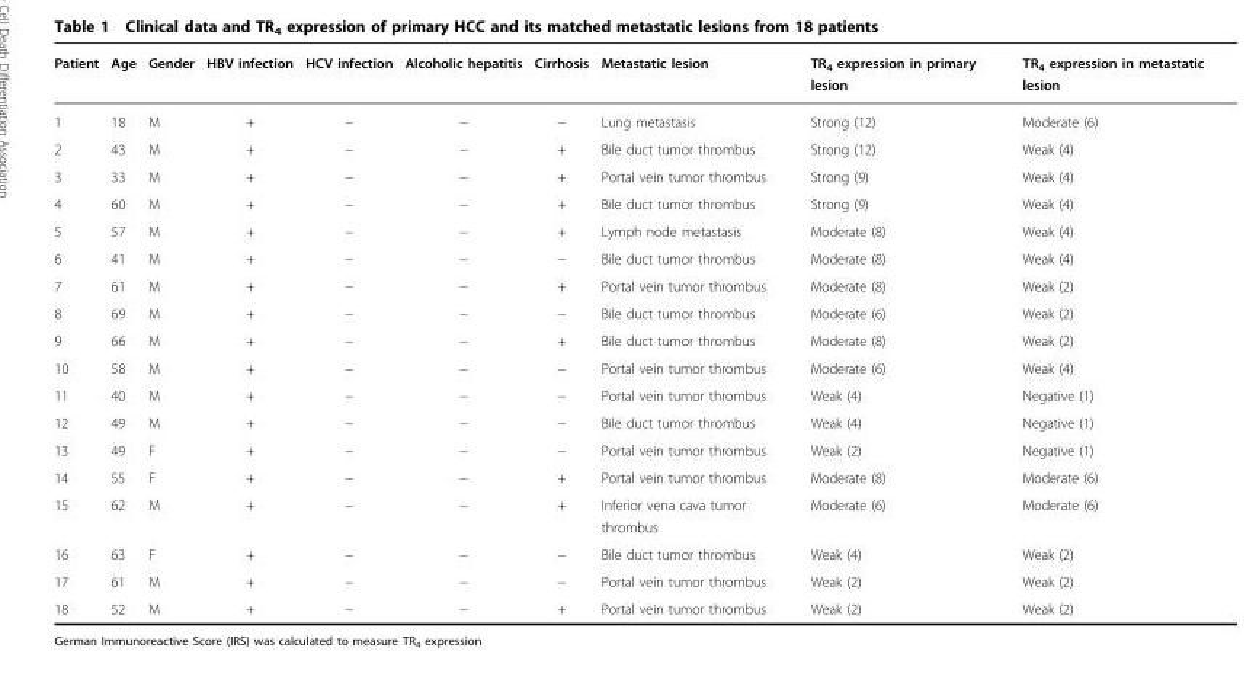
<table><thead><tr><td>Patient</td><td>Age</td><td>Gender</td><td>HBV infection</td><td>HCV infection</td><td>Alcoholic hepatitis</td><td>Cirrhosis</td><td>Metastatic lesion</td><td>TR<sub>4</sub> expression in primary lesion</td><td>TR<sub>4</sub> expression in metastatic lesion</td></tr></thead><tbody><tr><td>1</td><td>18</td><td>M</td><td>+</td><td>−</td><td>−</td><td>−</td><td>Lung metastasis</td><td>Strong (12)</td><td>Moderate (6)</td></tr><tr><td>2</td><td>43</td><td>M</td><td>+</td><td>−</td><td>−</td><td>+</td><td>Bile duct tumor thrombus</td><td>Strong (12)</td><td>Weak (4)</td></tr><tr><td>3</td><td>33</td><td>M</td><td>+</td><td>−</td><td>−</td><td>+</td><td>Portal vein tumor thrombus</td><td>Strong (9)</td><td>Weak (4)</td></tr><tr><td>4</td><td>60</td><td>M</td><td>+</td><td>−</td><td>−</td><td>+</td><td>Bile duct tumor thrombus</td><td>Strong (9)</td><td>Weak (4)</td></tr><tr><td>5</td><td>57</td><td>M</td><td>+</td><td>−</td><td>−</td><td>+</td><td>Lymph node metastasis</td><td>Moderate (8)</td><td>Weak (4)</td></tr><tr><td>6</td><td>41</td><td>M</td><td>+</td><td>−</td><td>−</td><td>−</td><td>Bile duct tumor thrombus</td><td>Moderate (8)</td><td>Weak (4)</td></tr><tr><td>7</td><td>61</td><td>M</td><td>+</td><td>−</td><td>−</td><td>+</td><td>Portal vein tumor thrombus</td><td>Moderate (8)</td><td>Weak (2)</td></tr><tr><td>8</td><td>69</td><td>M</td><td>+</td><td>−</td><td>−</td><td>−</td><td>Bile duct tumor thrombus</td><td>Moderate (6)</td><td>Weak (2)</td></tr><tr><td>9</td><td>66</td><td>M</td><td>+</td><td>−</td><td>−</td><td>+</td><td>Bile duct tumor thrombus</td><td>Moderate (8)</td><td>Weak (2)</td></tr><tr><td>10</td><td>58</td><td>M</td><td>+</td><td>−</td><td>−</td><td>−</td><td>Portal vein tumor thrombus</td><td>Moderate (6)</td><td>Weak (4)</td></tr><tr><td>11</td><td>40</td><td>M</td><td>+</td><td>−</td><td>−</td><td>−</td><td>Portal vein tumor thrombus</td><td>Weak (4)</td><td>Negative (1)</td></tr><tr><td>12</td><td>49</td><td>M</td><td>+</td><td>−</td><td>−</td><td>−</td><td>Bile duct tumor thrombus</td><td>Weak (4)</td><td>Negative (1)</td></tr><tr><td>13</td><td>49</td><td>F</td><td>+</td><td>−</td><td>−</td><td>−</td><td>Portal vein tumor thrombus</td><td>Weak (2)</td><td>Negative (1)</td></tr><tr><td>14</td><td>55</td><td>F</td><td>+</td><td>−</td><td>−</td><td>+</td><td>Portal vein tumor thrombus</td><td>Moderate (8)</td><td>Moderate (6)</td></tr><tr><td>15</td><td>62</td><td>M</td><td>+</td><td>−</td><td>−</td><td>+</td><td>Inferior vena cava tumor thrombus</td><td>Moderate (6)</td><td>Moderate (6)</td></tr><tr><td>16</td><td>63</td><td>F</td><td>+</td><td>−</td><td>−</td><td>−</td><td>Bile duct tumor thrombus</td><td>Weak (4)</td><td>Weak (2)</td></tr><tr><td>17</td><td>61</td><td>M</td><td>+</td><td>−</td><td>−</td><td>−</td><td>Portal vein tumor thrombus</td><td>Weak (2)</td><td>Weak (2)</td></tr><tr><td>18</td><td>52</td><td>M</td><td>+</td><td>−</td><td>−</td><td>+</td><td>Portal vein tumor thrombus</td><td>Weak (2)</td><td>Weak (2)</td></tr></tbody></table>